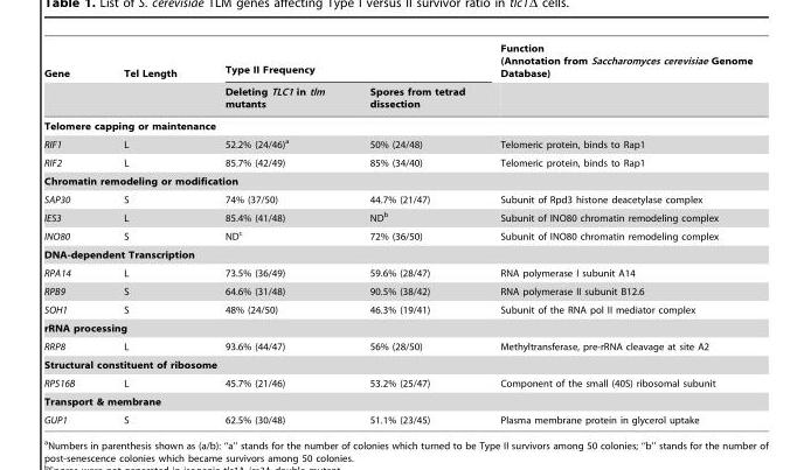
<table><thead><tr><td rowspan="2">Gene</td><td rowspan="2">Tel Length</td><td colspan="2">Type II Frequency</td><td rowspan="2">Function (Annotation from Saccharomyces cerevisiae Genome Database)</td></tr><tr><td>Deleting TLC1 in tlm mutants</td><td>Spores from tetrad dissection</td></tr></thead><tbody><tr><td colspan="5">Telomere capping or maintenance</td></tr><tr><td>RIF1</td><td>L</td><td>52.2% (24/46)<sup>a</sup></td><td>50% (24/48)</td><td>Telomeric protein, binds to Rap1</td></tr><tr><td>RIF2</td><td>L</td><td>85.7% (42/49)</td><td>85% (34/40)</td><td>Telomeric protein, binds to Rap1</td></tr><tr><td colspan="5">Chromatin remodeling or modification</td></tr><tr><td>SAP30</td><td>S</td><td>74% (37/50)</td><td>44.7% (21/47)</td><td>Subunit of Rpd3 histone deacetylase complex</td></tr><tr><td>IES3</td><td>L</td><td>85.4% (41/48)</td><td>ND<sup>b</sup></td><td>Subunit of INO80 chromatin remodeling complex</td></tr><tr><td>INO80</td><td>S</td><td>ND<sup>c</sup></td><td>72% (36/50)</td><td>Subunit of INO80 chromatin remodeling complex</td></tr><tr><td colspan="5">DNA-dependent Transcription</td></tr><tr><td>RPA14</td><td>L</td><td>73.5% (36/49)</td><td>59.6% (28/47)</td><td>RNA polymerase I subunit A14</td></tr><tr><td>RPB9</td><td>S</td><td>64.6% (31/48)</td><td>90.5% (38/42)</td><td>RNA polymerase II subunit B12.6</td></tr><tr><td>SOH1</td><td>S</td><td>48% (24/50)</td><td>46.3% (19/41)</td><td>Subunit of the RNA pol II mediator complex</td></tr><tr><td colspan="5">rRNA processing</td></tr><tr><td>RRP8</td><td>L</td><td>93.6% (44/47)</td><td>56% (28/50)</td><td>Methyltransferase, pre-rRNA cleavage at site A2</td></tr><tr><td colspan="5">Structural constituent of ribosome</td></tr><tr><td>RPS16B</td><td>L</td><td>45.7% (21/46)</td><td>53.2% (25/47)</td><td>Component of the small (40S) ribosomal subunit</td></tr><tr><td colspan="5">Transport &amp; membrane</td></tr><tr><td>GUP1</td><td>S</td><td>62.5% (30/48)</td><td>51.1% (23/45)</td><td>Plasma membrane protein in glycerol uptake</td></tr></tbody></table>